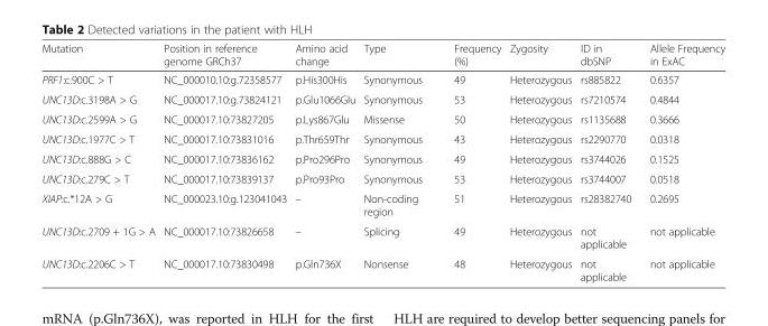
<table><thead><tr><td>Mutation</td><td>Position in reference genome GRCh37</td><td>Amino acid change</td><td>Type</td><td>Frequency (%)</td><td>Zygosity</td><td>ID in dbSNP</td><td>Allele Frequency in ExAC</td></tr></thead><tbody><tr><td>PRF1:c.900C &gt; T</td><td>NC_000010.10:g.72358577</td><td>p.His300His</td><td>Synonymous</td><td>49</td><td>Heterozygous</td><td>rs885822</td><td>0.6357</td></tr><tr><td>UNC13D:c.3198A &gt; G</td><td>NC_000017.10:g.73824121</td><td>p.Glu1066Glu</td><td>Synonymous</td><td>53</td><td>Heterozygous</td><td>rs7210574</td><td>0.4844</td></tr><tr><td>UNC13D:c.2599A &gt; G</td><td>NC_000017.10:73827205</td><td>p.Lys867Glu</td><td>Missense</td><td>50</td><td>Heterozygous</td><td>rs1135688</td><td>0.3666</td></tr><tr><td>UNC13D:c.1977C &gt; T</td><td>NC_000017.10:73831016</td><td>p.Thr659Thr</td><td>Synonymous</td><td>43</td><td>Heterozygous</td><td>rs2290770</td><td>0.0318</td></tr><tr><td>UNC13D:c.888G &gt; C</td><td>NC_000017.10:73836162</td><td>p.Pro296Pro</td><td>Synonymous</td><td>49</td><td>Heterozygous</td><td>rs3744026</td><td>0.1525</td></tr><tr><td>UNC13D:c.279C &gt; T</td><td>NC_000017.10:73839137</td><td>p.Pro93Pro</td><td>Synonymous</td><td>53</td><td>Heterozygous</td><td>rs3744007</td><td>0.0518</td></tr><tr><td>XIAP:c.*12A &gt; G</td><td>NC_000023.10:g.123041043</td><td>–</td><td>Non-coding region</td><td>51</td><td>Heterozygous</td><td>rs28382740</td><td>0.2695</td></tr><tr><td>UNC13D:c.2709 + 1G &gt; A</td><td>NC_000017.10:73826658</td><td>–</td><td>Splicing</td><td>49</td><td>Heterozygous</td><td>not applicable</td><td>not applicable</td></tr><tr><td>UNC13D:c.2206C &gt; T</td><td>NC_000017.10:73830498</td><td>p.Gln736X</td><td>Nonsense</td><td>48</td><td>Heterozygous</td><td>not applicable</td><td>not applicable</td></tr></tbody></table>